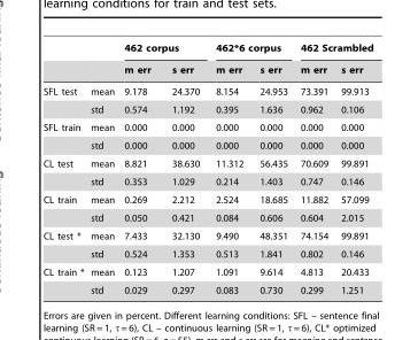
<table><thead><tr><td rowspan="2"></td><td rowspan="2"></td><td colspan="2">462 corpus</td><td colspan="2">462*6 corpus</td><td colspan="2">462 Scrambled</td></tr><tr><td>m err</td><td>s err</td><td>m err</td><td>s err</td><td>m err</td><td>s err</td></tr></thead><tbody><tr><td rowspan="2">SFL test</td><td>mean</td><td>9.178</td><td>24.370</td><td>8.154</td><td>24.953</td><td>73.391</td><td>99.913</td></tr><tr><td>std</td><td>0.574</td><td>1.192</td><td>0.395</td><td>1.636</td><td>0.962</td><td>0.106</td></tr><tr><td rowspan="2">SFL train</td><td>mean</td><td>0.000</td><td>0.000</td><td>0.000</td><td>0.000</td><td>0.000</td><td>0.000</td></tr><tr><td>std</td><td>0.000</td><td>0.000</td><td>0.000</td><td>0.000</td><td>0.000</td><td>0.000</td></tr><tr><td rowspan="2">CL test</td><td>mean</td><td>8.821</td><td>38.630</td><td>11.312</td><td>56.435</td><td>70.609</td><td>99.891</td></tr><tr><td>std</td><td>0.353</td><td>1.029</td><td>0.214</td><td>1.403</td><td>0.747</td><td>0.146</td></tr><tr><td rowspan="2">CL train</td><td>mean</td><td>0.269</td><td>2.212</td><td>2.524</td><td>18.685</td><td>11.882</td><td>57.099</td></tr><tr><td>std</td><td>0.050</td><td>0.421</td><td>0.084</td><td>0.606</td><td>0.604</td><td>2.015</td></tr><tr><td rowspan="2">CL test *</td><td>mean</td><td>7.433</td><td>32.130</td><td>9.490</td><td>48.351</td><td>74.154</td><td>99.891</td></tr><tr><td>std</td><td>0.524</td><td>1.353</td><td>0.513</td><td>1.841</td><td>0.802</td><td>0.146</td></tr><tr><td rowspan="2">CL train *</td><td>mean</td><td>0.123</td><td>1.207</td><td>1.091</td><td>9.614</td><td>4.813</td><td>20.433</td></tr><tr><td>std</td><td>0.029</td><td>0.297</td><td>0.083</td><td>0.730</td><td>0.299</td><td>1.251</td></tr></tbody></table>